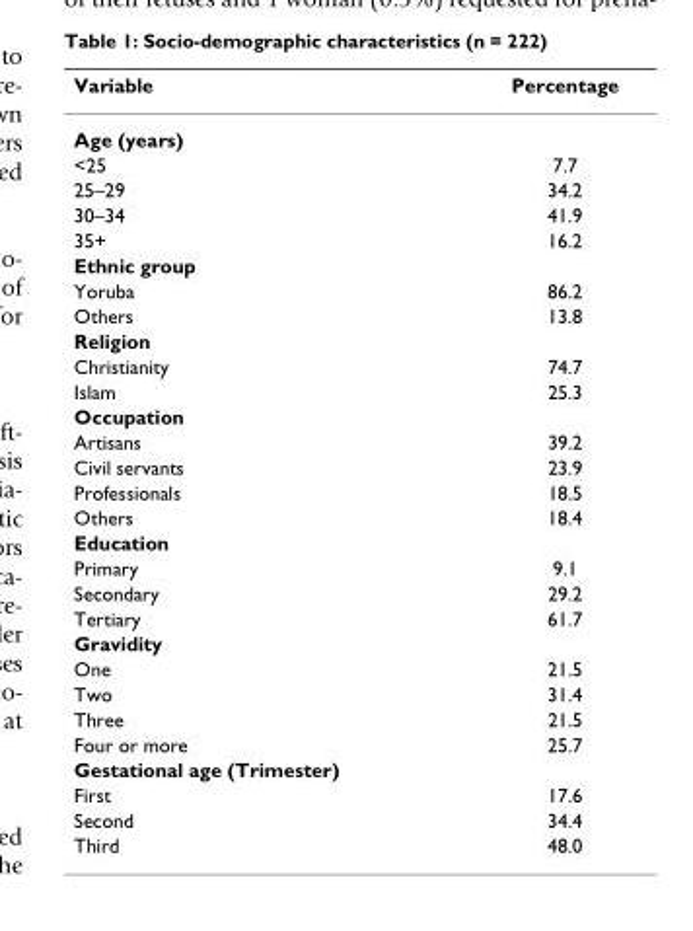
<table><thead><tr><td>Variable</td><td>Percentage</td></tr></thead><tbody><tr><td colspan="2">Age (years)</td></tr><tr><td>&lt;25</td><td>7.7</td></tr><tr><td>25–29</td><td>34.2</td></tr><tr><td>30–34</td><td>41.9</td></tr><tr><td>35+</td><td>16.2</td></tr><tr><td colspan="2">Ethnic group</td></tr><tr><td>Yoruba</td><td>86.2</td></tr><tr><td>Others</td><td>13.8</td></tr><tr><td colspan="2">Religion</td></tr><tr><td>Christianity</td><td>74.7</td></tr><tr><td>Islam</td><td>25.3</td></tr><tr><td colspan="2">Occupation</td></tr><tr><td>Artisans</td><td>39.2</td></tr><tr><td>Civil servants</td><td>23.9</td></tr><tr><td>Professionals</td><td>18.5</td></tr><tr><td>Others</td><td>18.4</td></tr><tr><td colspan="2">Education</td></tr><tr><td>Primary</td><td>9.1</td></tr><tr><td>Secondary</td><td>29.2</td></tr><tr><td>Tertiary</td><td>61.7</td></tr><tr><td colspan="2">Gravidity</td></tr><tr><td>One</td><td>21.5</td></tr><tr><td>Two</td><td>31.4</td></tr><tr><td>Three</td><td>21.5</td></tr><tr><td>Four or more</td><td>25.7</td></tr><tr><td colspan="2">Gestational age (Trimester)</td></tr><tr><td>First</td><td>17.6</td></tr><tr><td>Second</td><td>34.4</td></tr><tr><td>Third</td><td>48.0</td></tr></tbody></table>